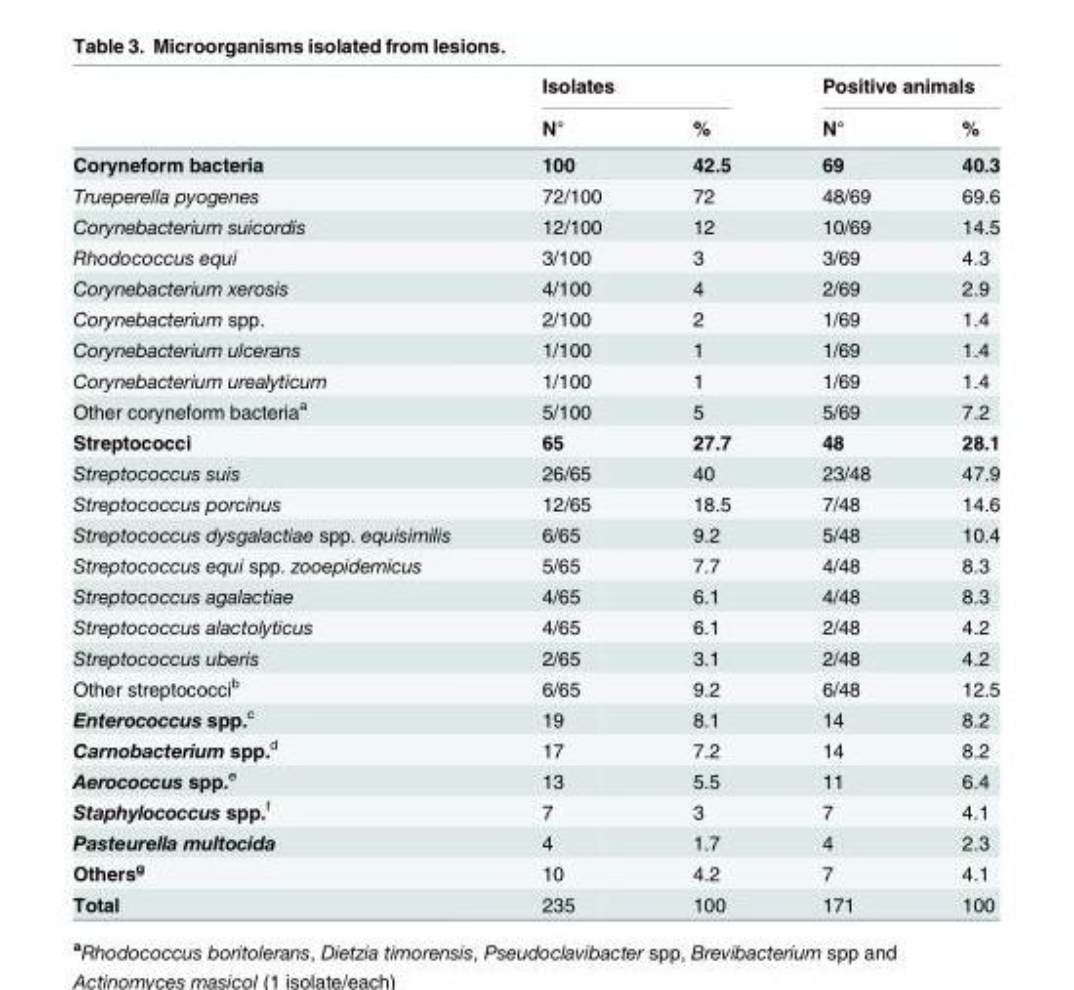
<table><thead><tr><td rowspan="2"></td><td colspan="2">Isolates</td><td colspan="2">Positive animals</td></tr><tr><td>N°</td><td>%</td><td>N°</td><td>%</td></tr></thead><tbody><tr><td>Coryneform bacteria</td><td>100</td><td>42.5</td><td>69</td><td>40.3</td></tr><tr><td>Trueperella pyogenes</td><td>72/100</td><td>72</td><td>48/69</td><td>69.6</td></tr><tr><td>Corynebacterium suicordis</td><td>12/100</td><td>12</td><td>10/69</td><td>14.5</td></tr><tr><td>Rhodococcus equi</td><td>3/100</td><td>3</td><td>3/69</td><td>4.3</td></tr><tr><td>Corynebacterium xerosis</td><td>4/100</td><td>4</td><td>2/69</td><td>2.9</td></tr><tr><td>Corynebacterium spp.</td><td>2/100</td><td>2</td><td>1/69</td><td>1.4</td></tr><tr><td>Corynebacterium ulcerans</td><td>1/100</td><td>1</td><td>1/69</td><td>1.4</td></tr><tr><td>Corynebacterium urealyticum</td><td>1/100</td><td>1</td><td>1/69</td><td>1.4</td></tr><tr><td>Other coryneform bacteria<sup>a</sup></td><td>5/100</td><td>5</td><td>5/69</td><td>7.2</td></tr><tr><td>Streptococci</td><td>65</td><td>27.7</td><td>48</td><td>28.1</td></tr><tr><td>Streptococcus suis</td><td>26/65</td><td>40</td><td>23/48</td><td>47.9</td></tr><tr><td>Streptococcus porcinus</td><td>12/65</td><td>18.5</td><td>7/48</td><td>14.6</td></tr><tr><td>Streptococcus dysgalactiae spp. equisimilis</td><td>6/65</td><td>9.2</td><td>5/48</td><td>10.4</td></tr><tr><td>Streptococcus equi spp. zooepidemicus</td><td>5/65</td><td>7.7</td><td>4/48</td><td>8.3</td></tr><tr><td>Streptococcus agalactiae</td><td>4/65</td><td>6.1</td><td>4/48</td><td>8.3</td></tr><tr><td>Streptococcus alactolyticus</td><td>4/65</td><td>6.1</td><td>2/48</td><td>4.2</td></tr><tr><td>Streptococcus uberis</td><td>2/65</td><td>3.1</td><td>2/48</td><td>4.2</td></tr><tr><td>Other streptococci<sup>b</sup></td><td>6/65</td><td>9.2</td><td>6/48</td><td>12.5</td></tr><tr><td>Enterococcus spp.<sup>c</sup></td><td>19</td><td>8.1</td><td>14</td><td>8.2</td></tr><tr><td>Carnobacterium spp.<sup>d</sup></td><td>17</td><td>7.2</td><td>14</td><td>8.2</td></tr><tr><td>Aerococcus spp.<sup>e</sup></td><td>13</td><td>5.5</td><td>11</td><td>6.4</td></tr><tr><td>Staphylococcus spp.<sup>f</sup></td><td>7</td><td>3</td><td>7</td><td>4.1</td></tr><tr><td>Pasteurella multocida</td><td>4</td><td>1.7</td><td>4</td><td>2.3</td></tr><tr><td>Others<sup>g</sup></td><td>10</td><td>4.2</td><td>7</td><td>4.1</td></tr><tr><td>Total</td><td>235</td><td>100</td><td>171</td><td>100</td></tr></tbody></table>